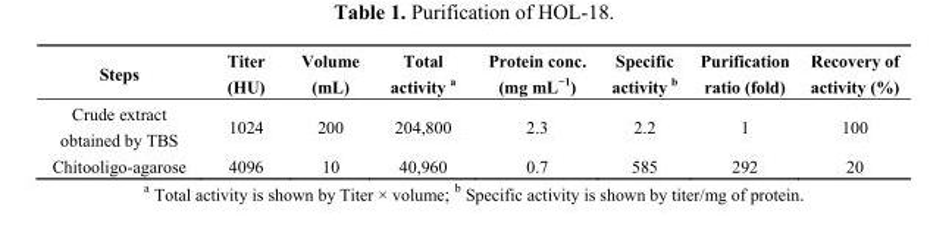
<table><thead><tr><td>Steps</td><td>Titer (HU)</td><td>Volume (mL)</td><td>Total activity <sup>a</sup></td><td>Protein conc. (mg mL<sup>−1</sup>)</td><td>Specific activity <sup>b</sup></td><td>Purification ratio (fold)</td><td>Recovery of activity (%)</td></tr></thead><tbody><tr><td>Crude extract obtained by TBS</td><td>1024</td><td>200</td><td>204,800</td><td>2.3</td><td>2.2</td><td>1</td><td>100</td></tr><tr><td>Chitooligo-agarose</td><td>4096</td><td>10</td><td>40,960</td><td>0.7</td><td>585</td><td>292</td><td>20</td></tr></tbody></table>